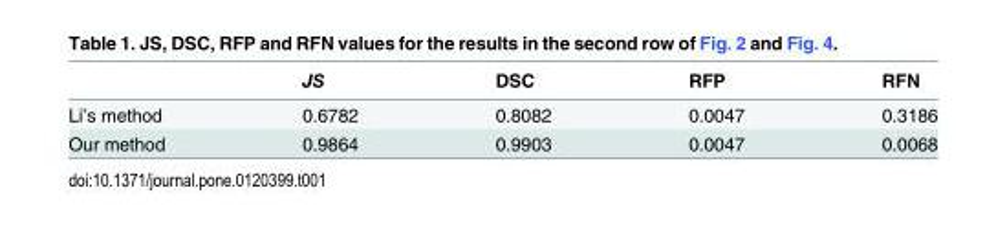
<table><thead><tr><td></td><td>JS</td><td>DSC</td><td>RFP</td><td>RFN</td></tr></thead><tbody><tr><td>Li’s method</td><td>0.6782</td><td>0.8082</td><td>0.0047</td><td>0.3186</td></tr><tr><td>Our method</td><td>0.9864</td><td>0.9903</td><td>0.0047</td><td>0.0068</td></tr></tbody></table>